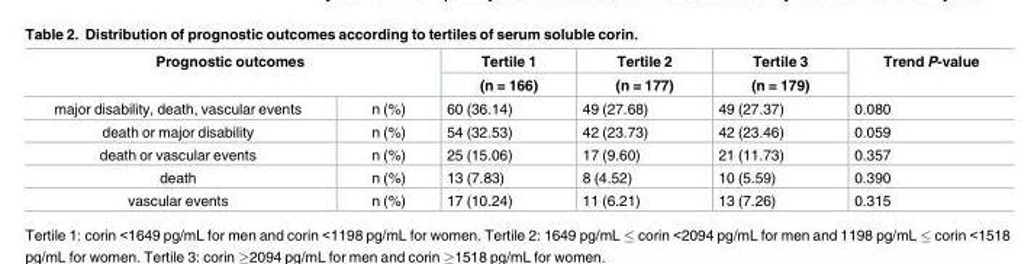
<table><thead><tr><td rowspan="2" colspan="2">Prognostic outcomes</td><td rowspan="3">Tertile 1 (n = 166) 60 (36.14)</td><td rowspan="3">Tertile 2 (n = 177) 49 (27.68)</td><td rowspan="3">Tertile 3 (n = 179) 49 (27.37)</td><td rowspan="3">Trend P-value 0.080</td></tr><tr></tr><tr><td>major disability, death, vascular events</td><td>n (%)</td></tr></thead><tbody><tr><td>death or major disability</td><td>n (%)</td><td>54 (32.53)</td><td>42 (23.73)</td><td>42 (23.46)</td><td>0.059</td></tr><tr><td>death or vascular events</td><td>n (%)</td><td>25 (15.06)</td><td>17 (9.60)</td><td>21 (11.73)</td><td>0.357</td></tr><tr><td>death</td><td>n (%)</td><td>13 (7.83)</td><td>8 (4.52)</td><td>10 (5.59)</td><td>0.390</td></tr><tr><td>vascular events</td><td>n (%)</td><td>17 (10.24)</td><td>11 (6.21)</td><td>13 (7.26)</td><td>0.315</td></tr></tbody></table>